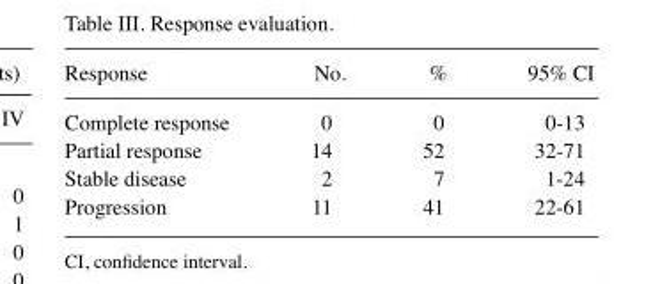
<table><thead><tr><td>Response</td><td>No.</td><td>%</td><td>95% CI</td></tr></thead><tbody><tr><td>Complete response</td><td>0</td><td>0</td><td>0-13</td></tr><tr><td>Partial response</td><td>14</td><td>52</td><td>32-71</td></tr><tr><td>Stable disease</td><td>2</td><td>7</td><td>1-24</td></tr><tr><td>Progression</td><td>11</td><td>41</td><td>22-61</td></tr></tbody></table>